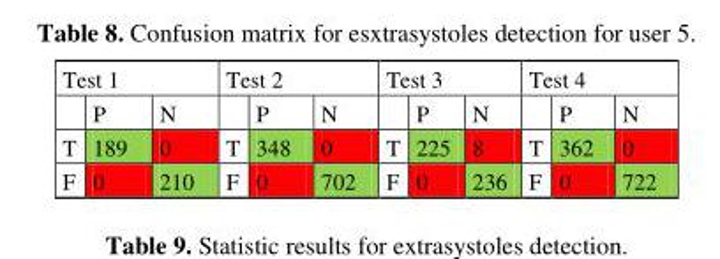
<table><thead><tr><td colspan="3">Test 1</td><td colspan="3">Test 2</td><td colspan="3">Test 3</td><td colspan="3">Test 4</td></tr><tr><td></td><td>P</td><td>N</td><td></td><td>P</td><td>N</td><td></td><td>P</td><td>N</td><td></td><td>P</td><td>N</td></tr></thead><tbody><tr><td>T</td><td>189</td><td>0</td><td>T</td><td>348</td><td>0</td><td>T</td><td>225</td><td>8</td><td>T</td><td>362</td><td>0</td></tr><tr><td>F</td><td>0</td><td>210</td><td>F</td><td>0</td><td>702</td><td>F</td><td>0</td><td>236</td><td>F</td><td>0</td><td>722</td></tr></tbody></table>